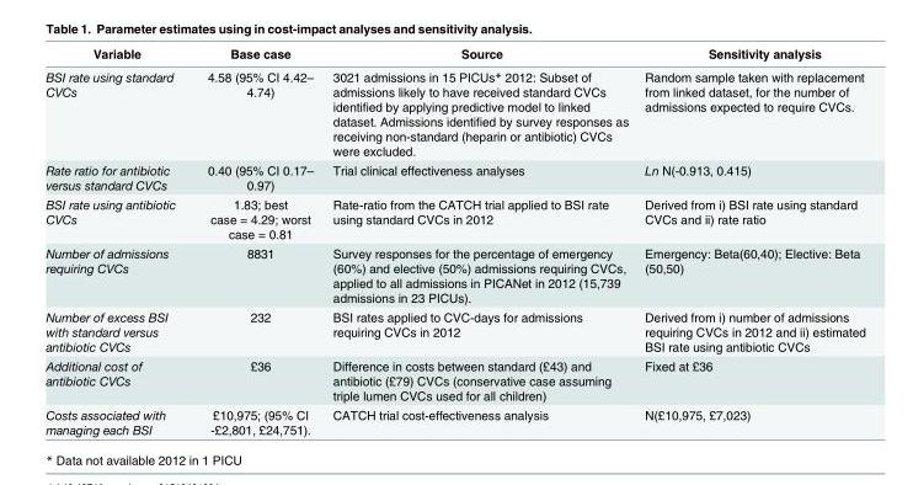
<table><thead><tr><td>Variable</td><td>Base case</td><td>Source</td><td>Sensitivity analysis</td></tr></thead><tbody><tr><td>BSI rate using standard CVCs</td><td>4.58 (95% CI 4.42– 4.74)</td><td>3021 admissions in 15 PICUs* 2012: Subset of admissions likely to have received standard CVCs identified by applying predictive model to linked dataset. Admissions identified by survey responses as receiving non-standard (heparin or antibiotic) CVCs were excluded.</td><td>Random sample taken with replacement from linked dataset, for the number of admissions expected to require CVCs.</td></tr><tr><td>Rate ratio for antibiotic versus standard CVCs</td><td>0.40 (95% CI 0.17– 0.97)</td><td>Trial clinical effectiveness analyses</td><td>Ln N(-0.913, 0.415)</td></tr><tr><td>BSI rate using antibiotic CVCs</td><td>1.83; best case = 4.29; worst case = 0.81</td><td>Rate-ratio from the CATCH trial applied to BSI rate using standard CVCs in 2012</td><td>Derived from i) BSI rate using standard CVCs and ii) rate ratio</td></tr><tr><td>Number of admissions requiring CVCs</td><td>8831</td><td>Survey responses for the percentage of emergency (60%) and elective (50%) admissions requiring CVCs, applied to all admissions in PICANet in 2012 (15,739 admissions in 23 PICUs).</td><td>Emergency: Beta(60,40); Elective: Beta (50,50)</td></tr><tr><td>Number of excess BSI with standard versus antibiotic CVCs</td><td>232</td><td>BSI rates applied to CVC-days for admissions requiring CVCs in 2012</td><td>Derived from i) number of admissions requiring CVCs in 2012 and ii) estimated BSI rate using antibiotic CVCs</td></tr><tr><td>Additional cost of antibiotic CVCs</td><td>£36</td><td>Difference in costs between standard (£43) and antibiotic (£79) CVCs (conservative case assuming triple lumen CVCs used for all children)</td><td>Fixed at £36</td></tr><tr><td>Costs associated with managing each BSI</td><td>£10,975; (95% CI -£2,801, £24,751).</td><td>CATCH trial cost-effectiveness analysis</td><td>N(£10,975, £7,023)</td></tr></tbody></table>